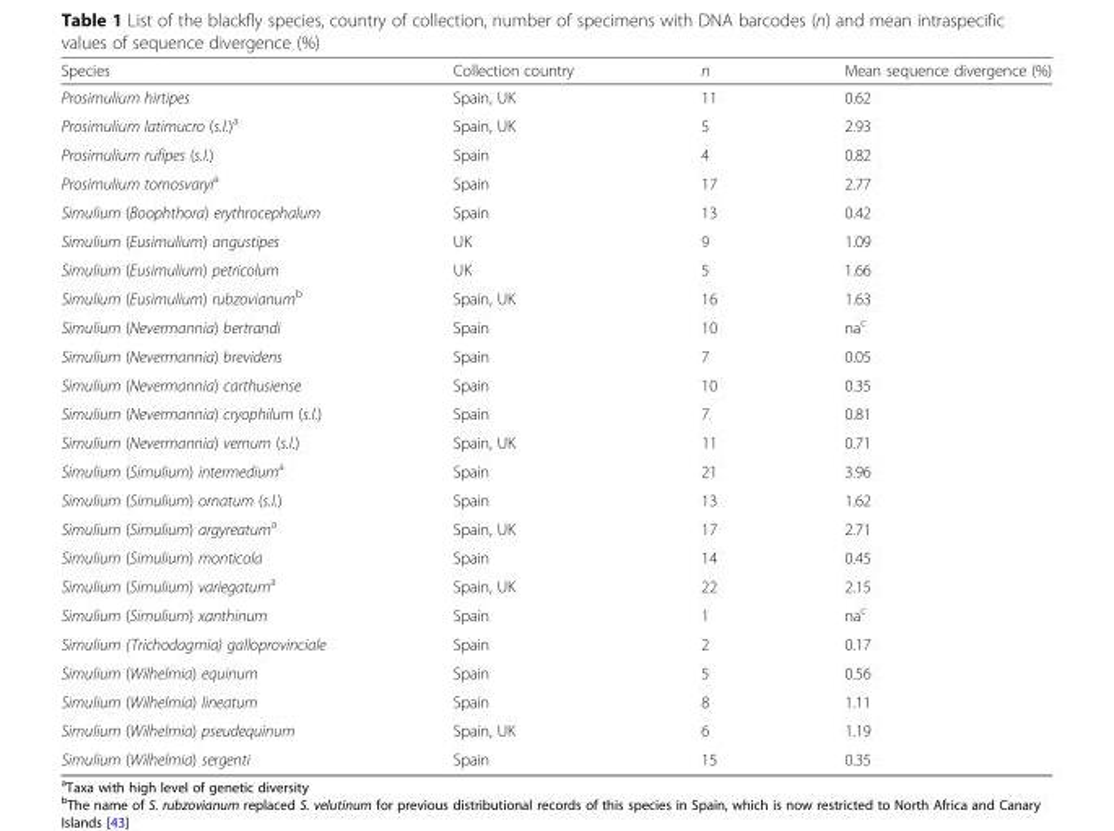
<table><thead><tr><td>Species</td><td>Collection country</td><td>n</td><td>Mean sequence divergence (%)</td></tr></thead><tbody><tr><td>Prosimulium hirtipes</td><td>Spain, UK</td><td>11</td><td>0.62</td></tr><tr><td>Prosimulium latimucro (s.l.)<sup>a</sup></td><td>Spain, UK</td><td>5</td><td>2.93</td></tr><tr><td>Prosimulium rufipes (s.l.)</td><td>Spain</td><td>4</td><td>0.82</td></tr><tr><td>Prosimulium tomosvaryi<sup>a</sup></td><td>Spain</td><td>17</td><td>2.77</td></tr><tr><td>Simulium (Boophthora) erythrocephalum</td><td>Spain</td><td>13</td><td>0.42</td></tr><tr><td>Simulium (Eusimulium) angustipes</td><td>UK</td><td>9</td><td>1.09</td></tr><tr><td>Simulium (Eusimulium) petricolum</td><td>UK</td><td>5</td><td>1.66</td></tr><tr><td>Simulium (Eusimulium) rubzovianum<sup>b</sup></td><td>Spain, UK</td><td>16</td><td>1.63</td></tr><tr><td>Simulium (Nevermannia) bertrandi</td><td>Spain</td><td>10</td><td>na<sup>c</sup></td></tr><tr><td>Simulium (Nevermannia) brevidens</td><td>Spain</td><td>7</td><td>0.05</td></tr><tr><td>Simulium (Nevermannia) carthusiense</td><td>Spain</td><td>10</td><td>0.35</td></tr><tr><td>Simulium (Nevermannia) cryophilum (s.l.)</td><td>Spain</td><td>7</td><td>0.81</td></tr><tr><td>Simulium (Nevermannia) vernum (s.l.)</td><td>Spain, UK</td><td>11</td><td>0.71</td></tr><tr><td>Simulium (Simulium) intermedium<sup>a</sup></td><td>Spain</td><td>21</td><td>3.96</td></tr><tr><td>Simulium (Simulium) ornatum (s.l.)</td><td>Spain</td><td>13</td><td>1.62</td></tr><tr><td>Simulium (Simulium) argyreatum<sup>a</sup></td><td>Spain, UK</td><td>17</td><td>2.71</td></tr><tr><td>Simulium (Simulium) monticola</td><td>Spain</td><td>14</td><td>0.45</td></tr><tr><td>Simulium (Simulium) variegatum<sup>a</sup></td><td>Spain, UK</td><td>22</td><td>2.15</td></tr><tr><td>Simulium (Simulium) xanthinum</td><td>Spain</td><td>1</td><td>na<sup>c</sup></td></tr><tr><td>Simulium (Trichodagmia) galloprovinciale</td><td>Spain</td><td>2</td><td>0.17</td></tr><tr><td>Simulium (Wilhelmia) equinum</td><td>Spain</td><td>5</td><td>0.56</td></tr><tr><td>Simulium (Wilhelmia) lineatum</td><td>Spain</td><td>8</td><td>1.11</td></tr><tr><td>Simulium (Wilhelmia) pseudequinum</td><td>Spain, UK</td><td>6</td><td>1.19</td></tr><tr><td>Simulium (Wilhelmia) sergenti</td><td>Spain</td><td>15</td><td>0.35</td></tr></tbody></table>